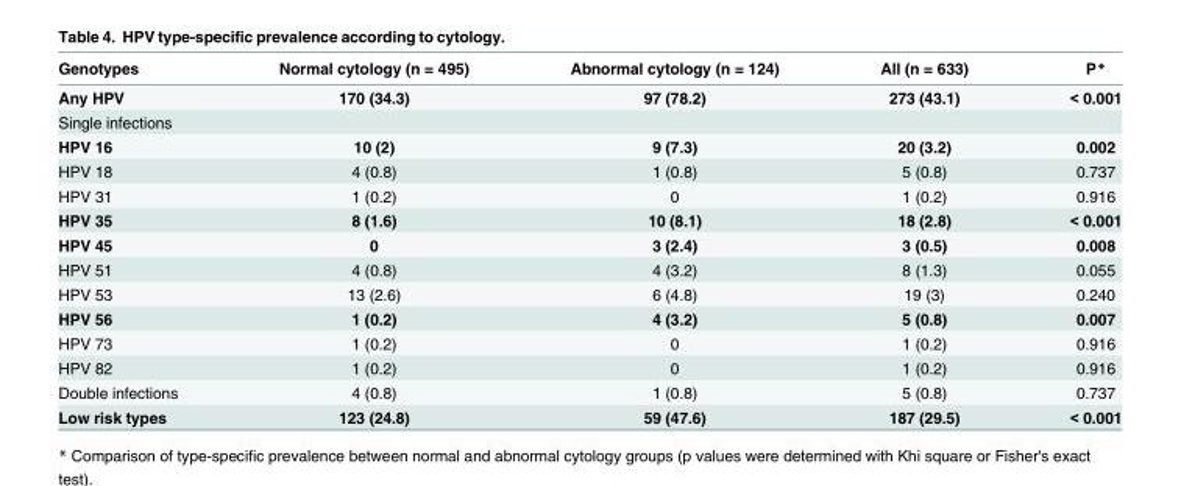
<table><thead><tr><td>Genotypes</td><td>Normal cytology (n = 495)</td><td>Abnormal cytology (n = 124)</td><td>All (n = 633)</td><td>P*</td></tr></thead><tbody><tr><td>Any HPV</td><td>170 (34.3)</td><td>97 (78.2)</td><td>273 (43.1)</td><td>&lt; 0.001</td></tr><tr><td colspan="5">Single infections</td></tr><tr><td>HPV 16</td><td>10 (2)</td><td>9 (7.3)</td><td>20 (3.2)</td><td>0.002</td></tr><tr><td>HPV 18</td><td>4 (0.8)</td><td>1 (0.8)</td><td>5 (0.8)</td><td>0.737</td></tr><tr><td>HPV 31</td><td>1 (0.2)</td><td>0</td><td>1 (0.2)</td><td>0.916</td></tr><tr><td>HPV 35</td><td>8 (1.6)</td><td>10 (8.1)</td><td>18 (2.8)</td><td>&lt; 0.001</td></tr><tr><td>HPV 45</td><td>0</td><td>3 (2.4)</td><td>3 (0.5)</td><td>0.008</td></tr><tr><td>HPV 51</td><td>4 (0.8)</td><td>4 (3.2)</td><td>8 (1.3)</td><td>0.055</td></tr><tr><td>HPV 53</td><td>13 (2.6)</td><td>6 (4.8)</td><td>19 (3)</td><td>0.240</td></tr><tr><td>HPV 56</td><td>1 (0.2)</td><td>4 (3.2)</td><td>5 (0.8)</td><td>0.007</td></tr><tr><td>HPV 73</td><td>1 (0.2)</td><td>0</td><td>1 (0.2)</td><td>0.916</td></tr><tr><td>HPV 82</td><td>1 (0.2)</td><td>0</td><td>1 (0.2)</td><td>0.916</td></tr><tr><td>Double infections</td><td>4 (0.8)</td><td>1 (0.8)</td><td>5 (0.8)</td><td>0.737</td></tr><tr><td>Low risk types</td><td>123 (24.8)</td><td>59 (47.6)</td><td>187 (29.5)</td><td>&lt; 0.001</td></tr></tbody></table>